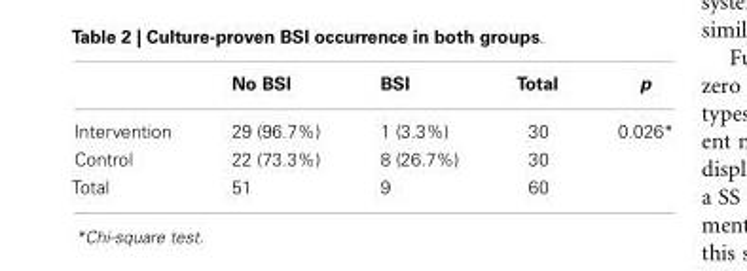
<table><thead><tr><td></td><td>No BSI</td><td>BSI</td><td>Total</td><td>p</td></tr></thead><tbody><tr><td>Intervention</td><td>29 (96.7%)</td><td>1 (3.3%)</td><td>30</td><td>0.026*</td></tr><tr><td>Control</td><td>22 (73.3%)</td><td>8 (26.7%)</td><td>30</td><td></td></tr><tr><td>Total</td><td>51</td><td>9</td><td>60</td><td></td></tr></tbody></table>